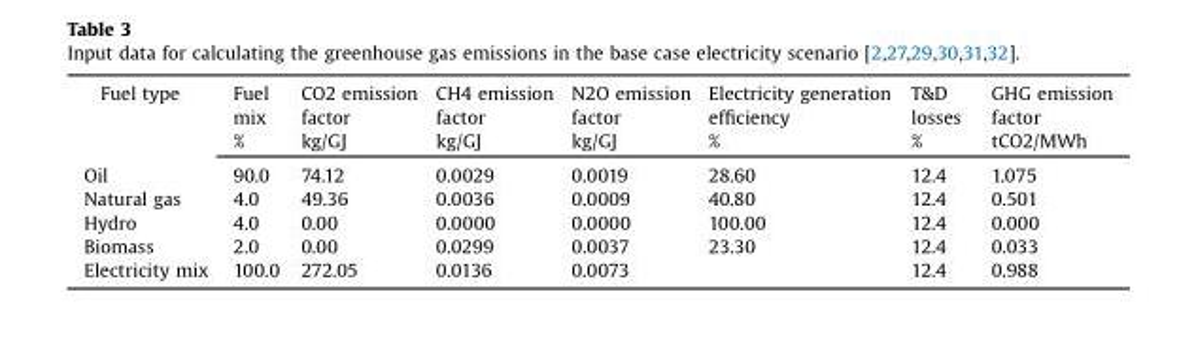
<table><thead><tr><td rowspan="2">Fuel type</td><td rowspan="2">Fuel mix %</td><td rowspan="2">CO2 emission factor kg/GJ</td><td rowspan="2">CH4 emission factor kg/GJ</td><td rowspan="2">N2O emission factor kg/GJ</td><td rowspan="2">Electricity generation efficiency %</td><td rowspan="2">T&amp;D losses %</td><td rowspan="2">GHG emission factor tCO2/MWh</td></tr><tr></tr></thead><tbody><tr><td>Oil</td><td>90.0</td><td>74.12</td><td>0.0029</td><td>0.0019</td><td>28.60</td><td>12.4</td><td>1.075</td></tr><tr><td>Natural gas</td><td>4.0</td><td>49.36</td><td>0.0036</td><td>0.0009</td><td>40.80</td><td>12.4</td><td>0.501</td></tr><tr><td>Hydro</td><td>4.0</td><td>0.00</td><td>0.0000</td><td>0.0000</td><td>100.00</td><td>12.4</td><td>0.000</td></tr><tr><td>Biomass</td><td>2.0</td><td>0.00</td><td>0.0299</td><td>0.0037</td><td>23.30</td><td>12.4</td><td>0.033</td></tr><tr><td>Electricity mix</td><td>100.0</td><td>272.05</td><td>0.0136</td><td>0.0073</td><td></td><td>12.4</td><td>0.988</td></tr></tbody></table>